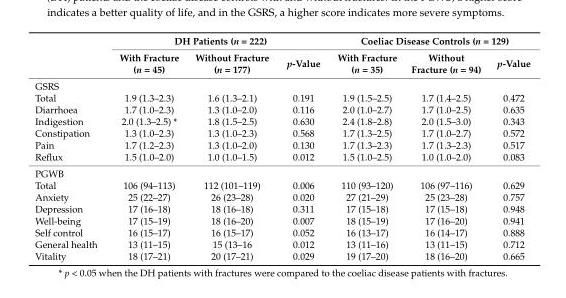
<table><thead><tr><td rowspan="2"></td><td colspan="3">DH Patients (n = 222)</td><td colspan="3">Coeliac Disease Controls (n = 129)</td></tr><tr><td>With Fracture (n = 45)</td><td>Without Fracture (n = 177)</td><td>p-Value</td><td>With Fracture (n = 35)</td><td>Without Fracture (n = 94)</td><td>p-Value</td></tr></thead><tbody><tr><td colspan="7">GSRS</td></tr><tr><td>Total</td><td>1.9 (1.3–2.3)</td><td>1.6 (1.3–2.1)</td><td>0.191</td><td>1.9 (1.5–2.5)</td><td>1.7 (1.4–2.5)</td><td>0.472</td></tr><tr><td>Diarrhoea</td><td>1.7 (1.0–2.3)</td><td>1.3 (1.0–2.0)</td><td>0.116</td><td>2.0 (1.0–2.7)</td><td>1.7 (1.0–2.5)</td><td>0.635</td></tr><tr><td>Indigestion</td><td>2.0 (1.3–2.5) *</td><td>1.8 (1.5–2.5)</td><td>0.630</td><td>2.4 (1.8–2.8)</td><td>2.0 (1.5–3.0)</td><td>0.343</td></tr><tr><td>Constipation</td><td>1.3 (1.0–2.3)</td><td>1.3 (1.0–2.3)</td><td>0.568</td><td>1.7 (1.3–2.5)</td><td>1.7 (1.0–2.7)</td><td>0.572</td></tr><tr><td>Pain</td><td>1.7 (1.2–2.3)</td><td>1.3 (1.0–2.0)</td><td>0.130</td><td>1.7 (1.3–2.3)</td><td>1.7 (1.3–2.3)</td><td>0.517</td></tr><tr><td>Reflux</td><td>1.5 (1.0–2.0)</td><td>1.0 (1.0–1.5)</td><td>0.012</td><td>1.5 (1.0–2.5)</td><td>1.0 (1.0–2.0)</td><td>0.083</td></tr><tr><td colspan="7">PGWB</td></tr><tr><td>Total</td><td>106 (94–113)</td><td>112 (101–119)</td><td>0.006</td><td>110 (93–120)</td><td>106 (97–116)</td><td>0.629</td></tr><tr><td>Anxiety</td><td>25 (22–27)</td><td>26 (23–28)</td><td>0.020</td><td>27 (21–29)</td><td>25 (23–28)</td><td>0.757</td></tr><tr><td>Depression</td><td>17 (16–18)</td><td>18 (16–18)</td><td>0.311</td><td>17 (15–18)</td><td>17 (15–18)</td><td>0.948</td></tr><tr><td>Well-being</td><td>17 (15–19)</td><td>18 (16–20)</td><td>0.007</td><td>18 (15–19)</td><td>17 (16–20)</td><td>0.941</td></tr><tr><td>Self control</td><td>16 (15–17)</td><td>16 (15–17)</td><td>0.052</td><td>16 (13–17)</td><td>16 (14–17)</td><td>0.888</td></tr><tr><td>General health</td><td>13 (11–15)</td><td>15 (13–16</td><td>0.012</td><td>13 (11–16)</td><td>13 (11–15)</td><td>0.712</td></tr><tr><td>Vitality</td><td>18 (17–21)</td><td>20 (17–21)</td><td>0.029</td><td>19 (17–20)</td><td>18 (16–20)</td><td>0.665</td></tr></tbody></table>